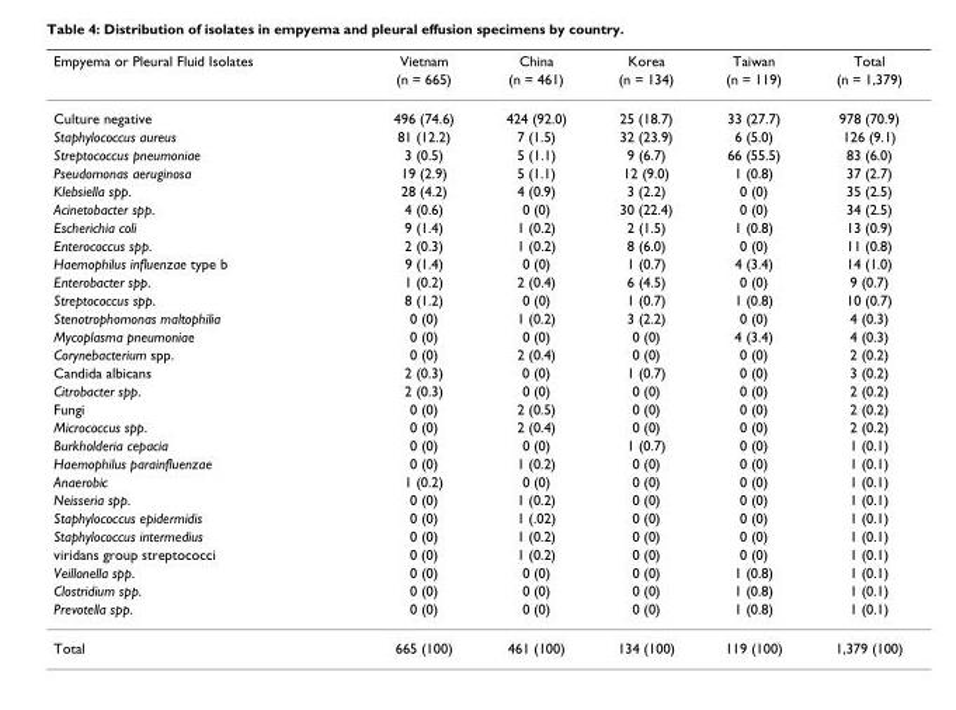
<table><thead><tr><td rowspan="2">Empyema or Pleural Fluid Isolates</td><td rowspan="2">Vietnam (n = 665)</td><td rowspan="2">China (n = 461)</td><td rowspan="2">Korea (n = 134)</td><td rowspan="2">Taiwan (n = 119)</td><td rowspan="2">Total (n = 1,379)</td></tr><tr></tr></thead><tbody><tr><td>Culture negative</td><td>496 (74.6)</td><td>424 (92.0)</td><td>25 (18.7)</td><td>33 (27.7)</td><td>978 (70.9)</td></tr><tr><td>Staphylococcus aureus</td><td>81 (12.2)</td><td>7 (1.5)</td><td>32 (23.9)</td><td>6 (5.0)</td><td>126 (9.1)</td></tr><tr><td>Streptococcus pneumoniae</td><td>3 (0.5)</td><td>5 (1.1)</td><td>9 (6.7)</td><td>66 (55.5)</td><td>83 (6.0)</td></tr><tr><td>Pseudomonas aeruginosa</td><td>19 (2.9)</td><td>5 (1.1)</td><td>12 (9.0)</td><td>1 (0.8)</td><td>37 (2.7)</td></tr><tr><td>Klebsiella spp.</td><td>28 (4.2)</td><td>4 (0.9)</td><td>3 (2.2)</td><td>0 (0)</td><td>35 (2.5)</td></tr><tr><td>Acinetobacter spp.</td><td>4 (0.6)</td><td>0 (0)</td><td>30 (22.4)</td><td>0 (0)</td><td>34 (2.5)</td></tr><tr><td>Escherichia coli</td><td>9 (1.4)</td><td>1 (0.2)</td><td>2 (1.5)</td><td>1 (0.8)</td><td>13 (0.9)</td></tr><tr><td>Enterococcus spp.</td><td>2 (0.3)</td><td>1 (0.2)</td><td>8 (6.0)</td><td>0 (0)</td><td>11 (0.8)</td></tr><tr><td>Haemophilus influenzae type b</td><td>9 (1.4)</td><td>0 (0)</td><td>1 (0.7)</td><td>4 (3.4)</td><td>14 (1.0)</td></tr><tr><td>Enterobacter spp.</td><td>1 (0.2)</td><td>2 (0.4)</td><td>6 (4.5)</td><td>0 (0)</td><td>9 (0.7)</td></tr><tr><td>Streptococcus spp.</td><td>8 (1.2)</td><td>0 (0)</td><td>1 (0.7)</td><td>1 (0.8)</td><td>10 (0.7)</td></tr><tr><td>Stenotrophomonas maltophilia</td><td>0 (0)</td><td>1 (0.2)</td><td>3 (2.2)</td><td>0 (0)</td><td>4 (0.3)</td></tr><tr><td>Mycoplasma pneumoniae</td><td>0 (0)</td><td>0 (0)</td><td>0 (0)</td><td>4 (3.4)</td><td>4 (0.3)</td></tr><tr><td>Corynebacterium spp.</td><td>0 (0)</td><td>2 (0.4)</td><td>0 (0)</td><td>0 (0)</td><td>2 (0.2)</td></tr><tr><td>Candida albicans</td><td>2 (0.3)</td><td>0 (0)</td><td>1 (0.7)</td><td>0 (0)</td><td>3 (0.2)</td></tr><tr><td>Citrobacter spp.</td><td>2 (0.3)</td><td>0 (0)</td><td>0 (0)</td><td>0 (0)</td><td>2 (0.2)</td></tr><tr><td>Fungi</td><td>0 (0)</td><td>2 (0.5)</td><td>0 (0)</td><td>0 (0)</td><td>2 (0.2)</td></tr><tr><td>Micrococcus spp.</td><td>0 (0)</td><td>2 (0.4)</td><td>0 (0)</td><td>0 (0)</td><td>2 (0.2)</td></tr><tr><td>Burkholderia cepacia</td><td>0 (0)</td><td>0 (0)</td><td>1 (0.7)</td><td>0 (0)</td><td>1 (0.1)</td></tr><tr><td>Haemophilus parainfluenzae</td><td>0 (0)</td><td>1 (0.2)</td><td>0 (0)</td><td>0 (0)</td><td>1 (0.1)</td></tr><tr><td>Anaerobic</td><td>1 (0.2)</td><td>0 (0)</td><td>0 (0)</td><td>0 (0)</td><td>1 (0.1)</td></tr><tr><td>Neisseria spp.</td><td>0 (0)</td><td>1 (0.2)</td><td>0 (0)</td><td>0 (0)</td><td>1 (0.1)</td></tr><tr><td>Staphylococcus epidermidis</td><td>0 (0)</td><td>1 (.02)</td><td>0 (0)</td><td>0 (0)</td><td>1 (0.1)</td></tr><tr><td>Staphylococcus intermedius</td><td>0 (0)</td><td>1 (0.2)</td><td>0 (0)</td><td>0 (0)</td><td>1 (0.1)</td></tr><tr><td>viridans group streptococci</td><td>0 (0)</td><td>1 (0.2)</td><td>0 (0)</td><td>0 (0)</td><td>1 (0.1)</td></tr><tr><td>Veillonella spp.</td><td>0 (0)</td><td>0 (0)</td><td>0 (0)</td><td>1 (0.8)</td><td>1 (0.1)</td></tr><tr><td>Clostridium spp.</td><td>0 (0)</td><td>0 (0)</td><td>0 (0)</td><td>1 (0.8)</td><td>1 (0.1)</td></tr><tr><td>Prevotella spp.</td><td>0 (0)</td><td>0 (0)</td><td>0 (0)</td><td>1 (0.8)</td><td>1 (0.1)</td></tr><tr><td>Total</td><td>665 (100)</td><td>461 (100)</td><td>134 (100)</td><td>119 (100)</td><td>1,379 (100)</td></tr></tbody></table>